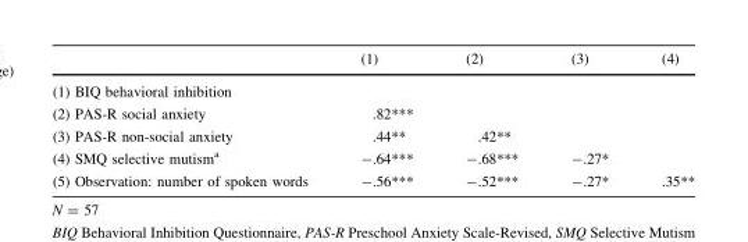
<table><thead><tr><td></td><td>(1)</td><td>(2)</td><td>(3)</td><td>(4)</td></tr></thead><tbody><tr><td colspan="5">(1) BIQ behavioral inhibition</td></tr><tr><td>(2) PAS-R social anxiety</td><td>.82***</td><td></td><td></td><td></td></tr><tr><td>(3) PAS-R non-social anxiety</td><td>.44**</td><td>.42**</td><td></td><td></td></tr><tr><td>(4) SMQ selective mutism<sup>a</sup></td><td>-.64***</td><td>-.68***</td><td>-.27*</td><td></td></tr><tr><td>(5) Observation: number of spoken words</td><td>-.56***</td><td>-.52***</td><td>-.27*</td><td>.35**</td></tr></tbody></table>